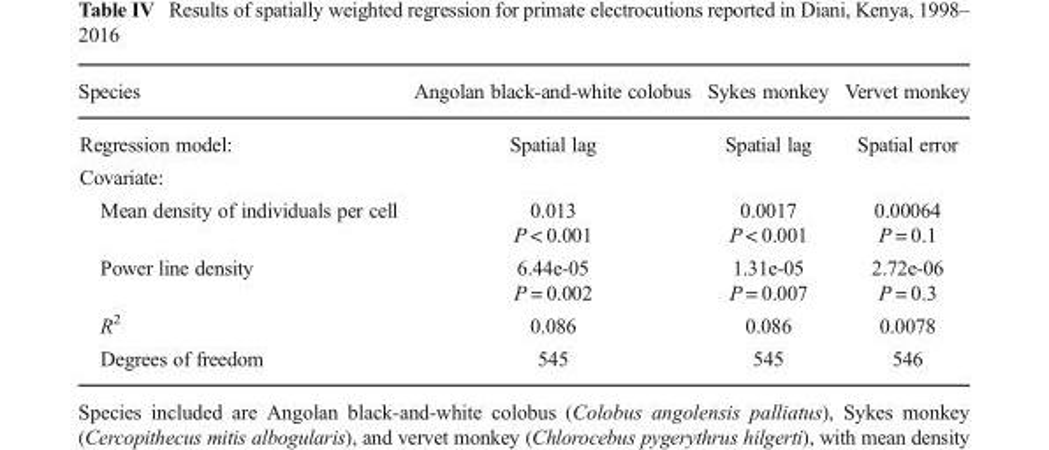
<table><thead><tr><td>Species</td><td>Angolan black-and-white colobus</td><td>Sykes monkey</td><td>Vervet monkey</td></tr></thead><tbody><tr><td>Regression model:</td><td>Spatial lag</td><td>Spatial lag</td><td>Spatial error</td></tr><tr><td colspan="4">Covariate:</td></tr><tr><td>Mean density of individuals per cell</td><td>0.013 P &lt; 0.001</td><td>0.0017 P &lt; 0.001</td><td>0.00064 P = 0.1</td></tr><tr><td>Power line density</td><td>6.44e-05 P = 0.002</td><td>1.31e-05 P = 0.007</td><td>2.72e-06 P = 0.3</td></tr><tr><td>R<sup>2</sup></td><td>0.086</td><td>0.086</td><td>0.0078</td></tr><tr><td>Degrees of freedom</td><td>545</td><td>545</td><td>546</td></tr></tbody></table>